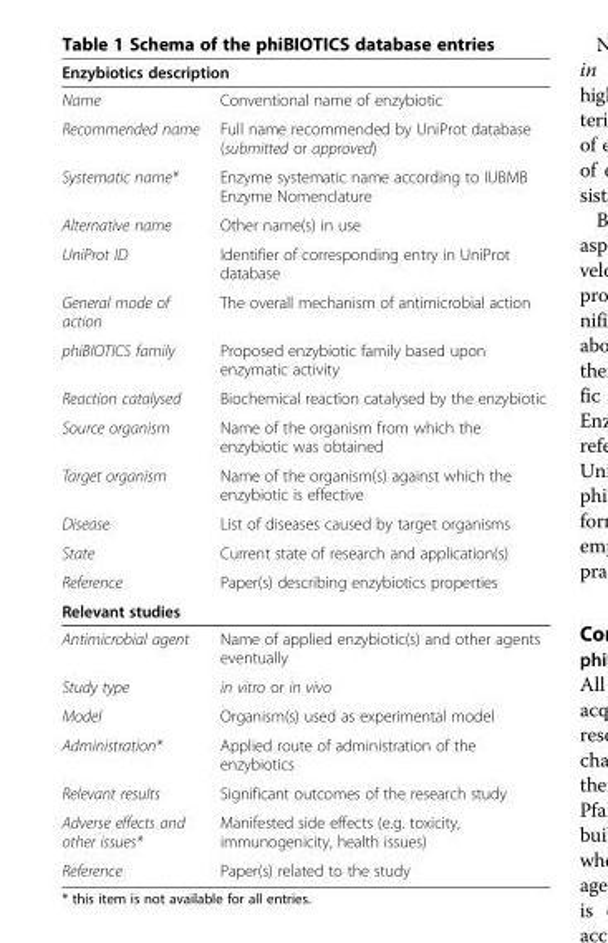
<table><thead><tr><td colspan="2">Enzybiotics description</td></tr><tr><td>Name</td><td>Conventional name of enzybiotic</td></tr></thead><tbody><tr><td>Recommended name</td><td>Full name recommended by UniProt database (submitted or approved)</td></tr><tr><td>Systematic name*</td><td>Enzyme systematic name according to IUBMB Enzyme Nomenclature</td></tr><tr><td>Alternative name</td><td>Other name(s) in use</td></tr><tr><td>UniProt ID</td><td>Identifier of corresponding entry in UniProt database</td></tr><tr><td>General mode of action</td><td>The overall mechanism of antimicrobial action</td></tr><tr><td>phiBIOTICS family</td><td>Proposed enzybiotic family based upon enzymatic activity</td></tr><tr><td>Reaction catalysed</td><td>Biochemical reaction catalysed by the enzybiotic</td></tr><tr><td>Source organism</td><td>Name of the organism from which the enzybiotic was obtained</td></tr><tr><td>Target organism</td><td>Name of the organism(s) against which the enzybiotic is effective</td></tr><tr><td>Disease</td><td>List of diseases caused by target organisms</td></tr><tr><td>State</td><td>Current state of research and application(s)</td></tr><tr><td>Reference</td><td>Paper(s) describing enzybiotics properties</td></tr><tr><td colspan="2">Relevant studies</td></tr><tr><td>Antimicrobial agent</td><td>Name of applied enzybiotic(s) and other agents eventually</td></tr><tr><td>Study type</td><td>in vitro or in vivo</td></tr><tr><td>Model</td><td>Organism(s) used as experimental model</td></tr><tr><td>Administration*</td><td>Applied route of administration of the enzybiotics</td></tr><tr><td>Relevant results</td><td>Significant outcomes of the research study</td></tr><tr><td>Adverse effects and other issues*</td><td>Manifested side effects (e.g. toxicity, immunogenicity, health issues)</td></tr><tr><td>Reference</td><td>Paper(s) related to the study</td></tr></tbody></table>